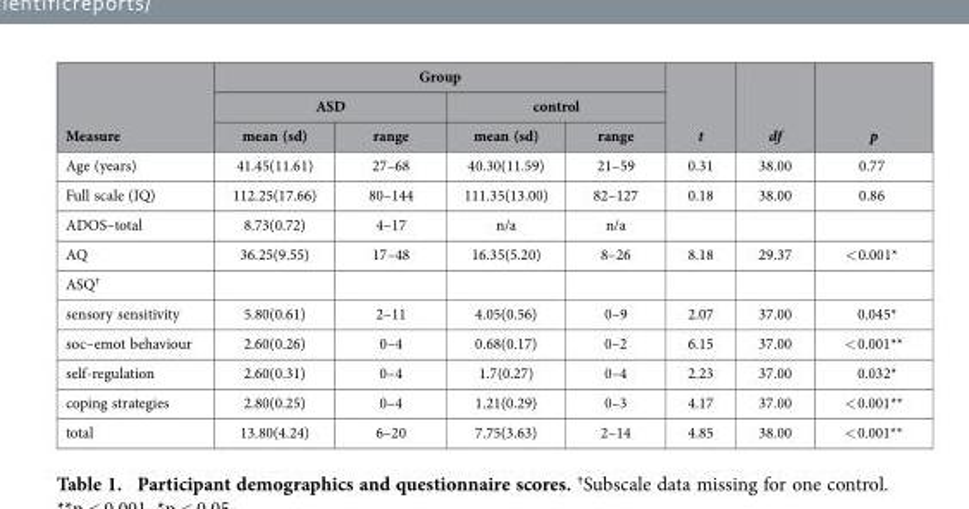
<table><thead><tr><td rowspan="3">Measure</td><td colspan="4">Group</td><td rowspan="3">t</td><td rowspan="3">df</td><td rowspan="3">p</td></tr><tr><td colspan="2">ASD</td><td colspan="2">control</td></tr><tr><td>mean (sd)</td><td>range</td><td>mean (sd)</td><td>range</td></tr></thead><tbody><tr><td>Age (years)</td><td>41.45(11.61)</td><td>27–68</td><td>40.30(11.59)</td><td>21–59</td><td>0.31</td><td>38.00</td><td>0.77</td></tr><tr><td>Full scale (IQ)</td><td>112.25(17.66)</td><td>80–144</td><td>111.35(13.00)</td><td>82–127</td><td>0.18</td><td>38.00</td><td>0.86</td></tr><tr><td>ADOS–total</td><td>8.73(0.72)</td><td>4–17</td><td>n/a</td><td>n/a</td><td></td><td></td><td></td></tr><tr><td>AQ</td><td>36.25(9.55)</td><td>17–48</td><td>16.35(5.20)</td><td>8–26</td><td>8.18</td><td>29.37</td><td>&lt; 0.001*</td></tr><tr><td colspan="8">ASQ†</td></tr><tr><td>sensory sensitivity</td><td>5.80(0.61)</td><td>2–11</td><td>4.05(0.56)</td><td>0–9</td><td>2.07</td><td>37.00</td><td>0.045*</td></tr><tr><td>soc–emot behaviour</td><td>2.60(0.26)</td><td>0–4</td><td>0.68(0.17)</td><td>0–2</td><td>6.15</td><td>37.00</td><td>&lt; 0.001**</td></tr><tr><td>self-regulation</td><td>2.60(0.31)</td><td>0–4</td><td>1.7(0.27)</td><td>0–4</td><td>2.23</td><td>37.00</td><td>0.032*</td></tr><tr><td>coping strategies</td><td>2.80(0.25)</td><td>0–4</td><td>1.21(0.29)</td><td>0–3</td><td>4.17</td><td>37.00</td><td>&lt; 0.001**</td></tr><tr><td>total</td><td>13.80(4.24)</td><td>6–20</td><td>7.75(3.63)</td><td>2–14</td><td>4.85</td><td>38.00</td><td>&lt; 0.001**</td></tr></tbody></table>